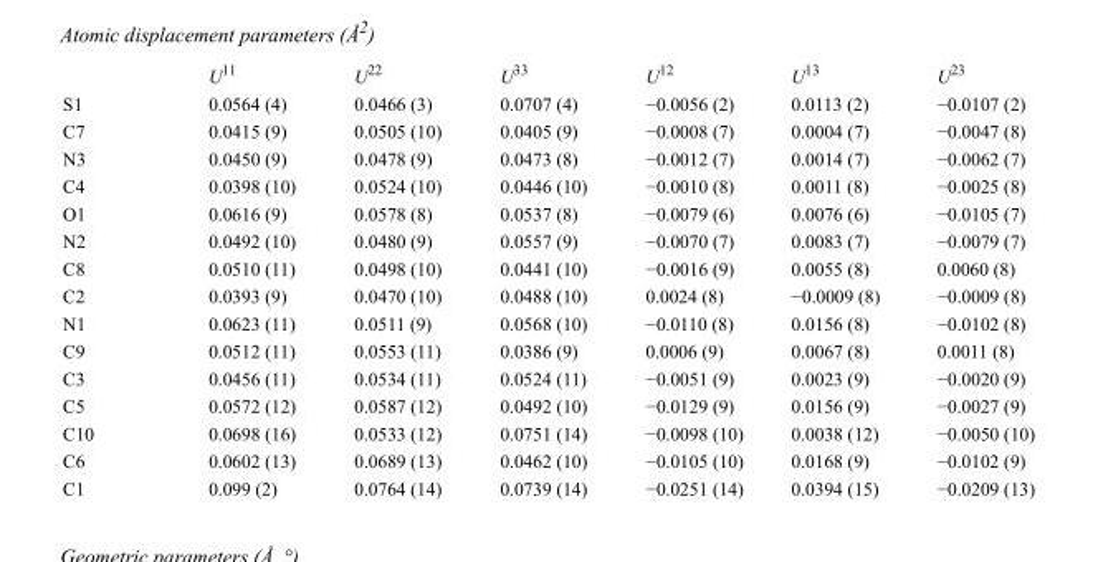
<table><thead><tr><td></td><td>U<sup>11</sup></td><td>U<sup>22</sup></td><td>U<sup>33</sup></td><td>U<sup>12</sup></td><td>U<sup>13</sup></td><td>U<sup>23</sup></td></tr></thead><tbody><tr><td>S1</td><td>0.0564 (4)</td><td>0.0466 (3)</td><td>0.0707 (4)</td><td>−0.0056 (2)</td><td>0.0113 (2)</td><td>−0.0107 (2)</td></tr><tr><td>C7</td><td>0.0415 (9)</td><td>0.0505 (10)</td><td>0.0405 (9)</td><td>−0.0008 (7)</td><td>0.0004 (7)</td><td>−0.0047 (8)</td></tr><tr><td>N3</td><td>0.0450 (9)</td><td>0.0478 (9)</td><td>0.0473 (8)</td><td>−0.0012 (7)</td><td>0.0014 (7)</td><td>−0.0062 (7)</td></tr><tr><td>C4</td><td>0.0398 (10)</td><td>0.0524 (10)</td><td>0.0446 (10)</td><td>−0.0010 (8)</td><td>0.0011 (8)</td><td>−0.0025 (8)</td></tr><tr><td>O1</td><td>0.0616 (9)</td><td>0.0578 (8)</td><td>0.0537 (8)</td><td>−0.0079 (6)</td><td>0.0076 (6)</td><td>−0.0105 (7)</td></tr><tr><td>N2</td><td>0.0492 (10)</td><td>0.0480 (9)</td><td>0.0557 (9)</td><td>−0.0070 (7)</td><td>0.0083 (7)</td><td>−0.0079 (7)</td></tr><tr><td>C8</td><td>0.0510 (11)</td><td>0.0498 (10)</td><td>0.0441 (10)</td><td>−0.0016 (9)</td><td>0.0055 (8)</td><td>0.0060 (8)</td></tr><tr><td>C2</td><td>0.0393 (9)</td><td>0.0470 (10)</td><td>0.0488 (10)</td><td>0.0024 (8)</td><td>−0.0009 (8)</td><td>−0.0009 (8)</td></tr><tr><td>N1</td><td>0.0623 (11)</td><td>0.0511 (9)</td><td>0.0568 (10)</td><td>−0.0110 (8)</td><td>0.0156 (8)</td><td>−0.0102 (8)</td></tr><tr><td>C9</td><td>0.0512 (11)</td><td>0.0553 (11)</td><td>0.0386 (9)</td><td>0.0006 (9)</td><td>0.0067 (8)</td><td>0.0011 (8)</td></tr><tr><td>C3</td><td>0.0456 (11)</td><td>0.0534 (11)</td><td>0.0524 (11)</td><td>−0.0051 (9)</td><td>0.0023 (9)</td><td>−0.0020 (9)</td></tr><tr><td>C5</td><td>0.0572 (12)</td><td>0.0587 (12)</td><td>0.0492 (10)</td><td>−0.0129 (9)</td><td>0.0156 (9)</td><td>−0.0027 (9)</td></tr><tr><td>C10</td><td>0.0698 (16)</td><td>0.0533 (12)</td><td>0.0751 (14)</td><td>−0.0098 (10)</td><td>0.0038 (12)</td><td>−0.0050 (10)</td></tr><tr><td>C6</td><td>0.0602 (13)</td><td>0.0689 (13)</td><td>0.0462 (10)</td><td>−0.0105 (10)</td><td>0.0168 (9)</td><td>−0.0102 (9)</td></tr><tr><td>C1</td><td>0.099 (2)</td><td>0.0764 (14)</td><td>0.0739 (14)</td><td>−0.0251 (14)</td><td>0.0394 (15)</td><td>−0.0209 (13)</td></tr></tbody></table>